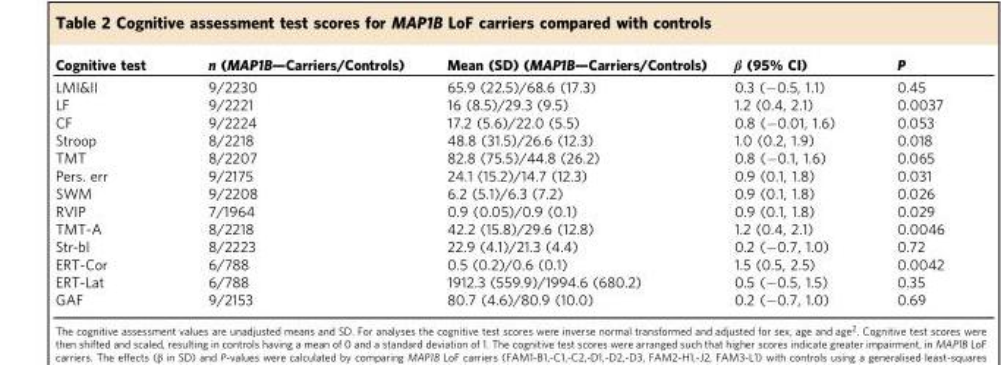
<table><thead><tr><td>Cognitive test</td><td>n (MAP1B—Carriers/Controls)</td><td>Mean (SD) (MAP1B—Carriers/Controls)</td><td>β (95% CI)</td><td>P</td></tr></thead><tbody><tr><td>LMI&amp;II</td><td>9/2230</td><td>65.9 (22.5)/68.6 (17.3)</td><td>0.3 (−0.5, 1.1)</td><td>0.45</td></tr><tr><td>LF</td><td>9/2221</td><td>16 (8.5)/29.3 (9.5)</td><td>1.2 (0.4, 2.1)</td><td>0.0037</td></tr><tr><td>CF</td><td>9/2224</td><td>17.2 (5.6)/22.0 (5.5)</td><td>0.8 (−0.01, 1.6)</td><td>0.053</td></tr><tr><td>Stroop</td><td>8/2218</td><td>48.8 (31.5)/26.6 (12.3)</td><td>1.0 (0.2, 1.9)</td><td>0.018</td></tr><tr><td>TMT</td><td>8/2207</td><td>82.8 (75.5)/44.8 (26.2)</td><td>0.8 (−0.1, 1.6)</td><td>0.065</td></tr><tr><td>Pers. err</td><td>9/2175</td><td>24.1 (15.2)/14.7 (12.3)</td><td>0.9 (0.1, 1.8)</td><td>0.031</td></tr><tr><td>SWM</td><td>9/2208</td><td>6.2 (5.1)/6.3 (7.2)</td><td>0.9 (0.1, 1.8)</td><td>0.026</td></tr><tr><td>RVIP</td><td>7/1964</td><td>0.9 (0.05)/0.9 (0.1)</td><td>0.9 (0.1, 1.8)</td><td>0.029</td></tr><tr><td>TMT-A</td><td>8/2218</td><td>42.2 (15.8)/29.6 (12.8)</td><td>1.2 (0.4, 2.1)</td><td>0.0046</td></tr><tr><td>Str-bl</td><td>8/2223</td><td>22.9 (4.1)/21.3 (4.4)</td><td>0.2 (−0.7, 1.0)</td><td>0.72</td></tr><tr><td>ERT-Cor</td><td>6/788</td><td>0.5 (0.2)/0.6 (0.1)</td><td>1.5 (0.5, 2.5)</td><td>0.0042</td></tr><tr><td>ERT-Lat</td><td>6/788</td><td>1912.3 (559.9)/1994.6 (680.2)</td><td>0.5 (−0.5, 1.5)</td><td>0.35</td></tr><tr><td>GAF</td><td>9/2153</td><td>80.7 (4.6)/80.9 (10.0)</td><td>0.2 (−0.7, 1.0)</td><td>0.69</td></tr></tbody></table>